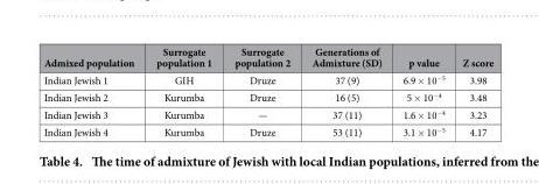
<table><thead><tr><td>Admixed population</td><td>Surrogate population 1</td><td>Surrogate population 2</td><td>Generations of Admixture (SD)</td><td>p value</td><td>Z score</td></tr></thead><tbody><tr><td>Indian Jewish 1</td><td>GIH</td><td>Druze</td><td>37 (9)</td><td>6.9 × 10<sup>−5</sup></td><td>3.98</td></tr><tr><td>Indian Jewish 2</td><td>Kurumba</td><td>Druze</td><td>16 (5)</td><td>5 × 10<sup>−4</sup></td><td>3.48</td></tr><tr><td>Indian Jewish 3</td><td>Kurumba</td><td>—</td><td>37 (11)</td><td>1.6 × 10<sup>−4</sup></td><td>3.23</td></tr><tr><td>Indian Jewish 4</td><td>Kurumba</td><td>Druze</td><td>53 (11)</td><td>3.1 × 10<sup>−5</sup></td><td>4.17</td></tr></tbody></table>